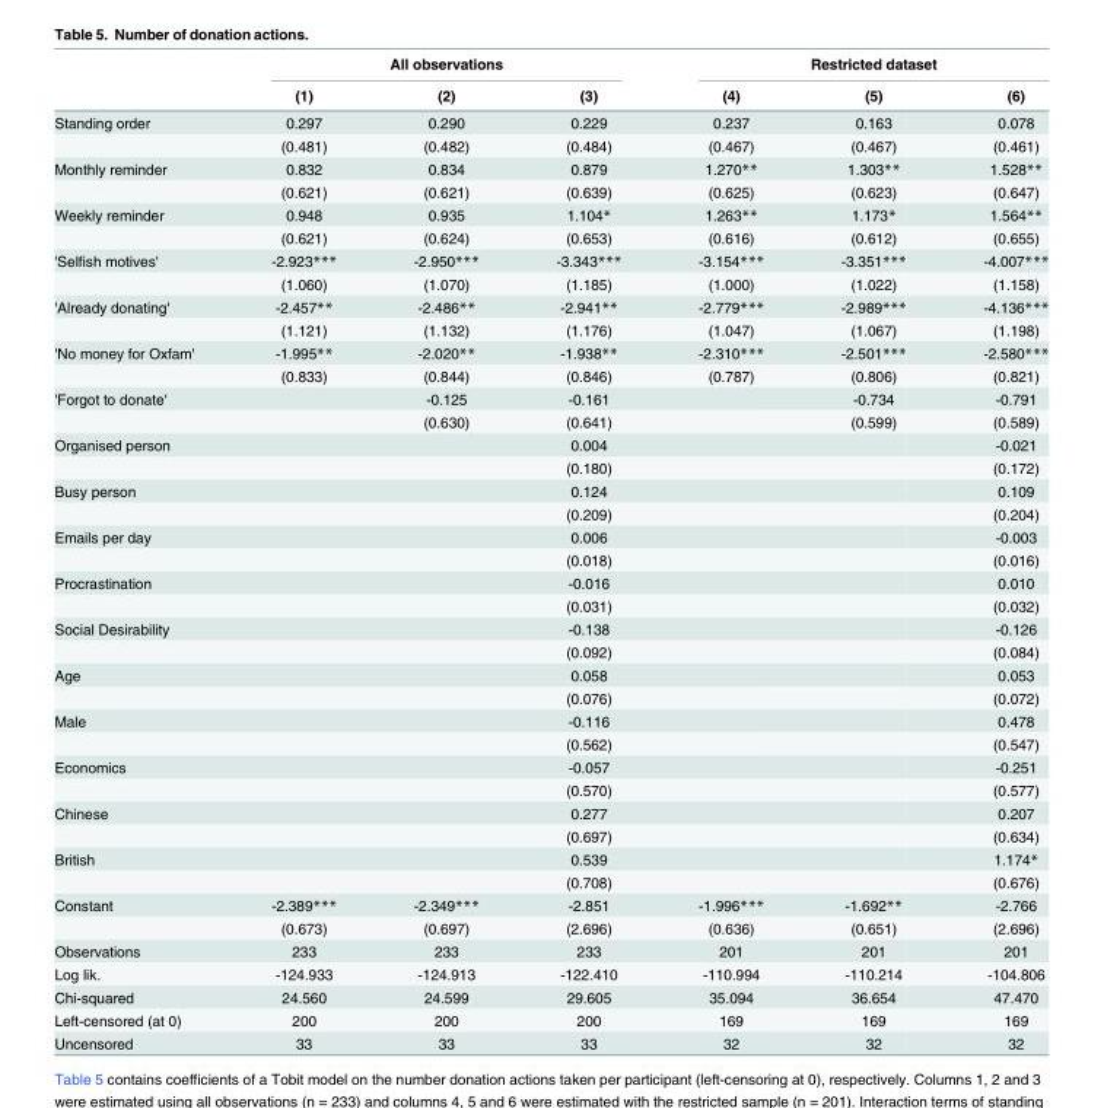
<table><thead><tr><td rowspan="2"></td><td colspan="3">All observations</td><td colspan="3">Restricted dataset</td></tr><tr><td>(1)</td><td>(2)</td><td>(3)</td><td>(4)</td><td>(5)</td><td>(6)</td></tr></thead><tbody><tr><td rowspan="2">Standing order</td><td>0.297</td><td>0.290</td><td>0.229</td><td>0.237</td><td>0.163</td><td>0.078</td></tr><tr><td>(0.481)</td><td>(0.482)</td><td>(0.484)</td><td>(0.467)</td><td>(0.467)</td><td>(0.461)</td></tr><tr><td rowspan="2">Monthly reminder</td><td>0.832</td><td>0.834</td><td>0.879</td><td>1.270**</td><td>1.303**</td><td>1.528**</td></tr><tr><td>(0.621)</td><td>(0.621)</td><td>(0.639)</td><td>(0.625)</td><td>(0.623)</td><td>(0.647)</td></tr><tr><td rowspan="2">Weekly reminder</td><td>0.948</td><td>0.935</td><td>1.104*</td><td>1.263**</td><td>1.173*</td><td>1.564**</td></tr><tr><td>(0.621)</td><td>(0.624)</td><td>(0.653)</td><td>(0.616)</td><td>(0.612)</td><td>(0.655)</td></tr><tr><td rowspan="2">&#x27;Selfish motives&#x27;</td><td>-2.923***</td><td>-2.950***</td><td>-3.343***</td><td>-3.154***</td><td>-3.351***</td><td>-4.007***</td></tr><tr><td>(1.060)</td><td>(1.070)</td><td>(1.185)</td><td>(1.000)</td><td>(1.022)</td><td>(1.158)</td></tr><tr><td rowspan="2">&#x27;Already donating&#x27;</td><td>-2.457**</td><td>-2.486**</td><td>-2.941**</td><td>-2.779***</td><td>-2.989***</td><td>-4.136***</td></tr><tr><td>(1.121)</td><td>(1.132)</td><td>(1.176)</td><td>(1.047)</td><td>(1.067)</td><td>(1.198)</td></tr><tr><td rowspan="2">&#x27;No money for Oxfam&#x27;</td><td>-1.995**</td><td>-2.020**</td><td>-1.938**</td><td>-2.310***</td><td>-2.501***</td><td>-2.580***</td></tr><tr><td>(0.833)</td><td>(0.844)</td><td>(0.846)</td><td>(0.787)</td><td>(0.806)</td><td>(0.821)</td></tr><tr><td rowspan="2">&#x27;Forgot to donate&#x27;</td><td></td><td>-0.125</td><td>-0.161</td><td></td><td>-0.734</td><td>-0.791</td></tr><tr><td></td><td>(0.630)</td><td>(0.641)</td><td></td><td>(0.599)</td><td>(0.589)</td></tr><tr><td rowspan="2">Organised person</td><td></td><td></td><td>0.004</td><td></td><td></td><td>-0.021</td></tr><tr><td></td><td></td><td>(0.180)</td><td></td><td></td><td>(0.172)</td></tr><tr><td rowspan="2">Busy person</td><td></td><td></td><td>0.124</td><td></td><td></td><td>0.109</td></tr><tr><td></td><td></td><td>(0.209)</td><td></td><td></td><td>(0.204)</td></tr><tr><td rowspan="2">Emails per day</td><td></td><td></td><td>0.006</td><td></td><td></td><td>-0.003</td></tr><tr><td></td><td></td><td>(0.018)</td><td></td><td></td><td>(0.016)</td></tr><tr><td rowspan="2">Procrastination</td><td></td><td></td><td>-0.016</td><td></td><td></td><td>0.010</td></tr><tr><td></td><td></td><td>(0.031)</td><td></td><td></td><td>(0.032)</td></tr><tr><td rowspan="2">Social Desirability</td><td></td><td></td><td>-0.138</td><td></td><td></td><td>-0.126</td></tr><tr><td></td><td></td><td>(0.092)</td><td></td><td></td><td>(0.084)</td></tr><tr><td rowspan="2">Age</td><td></td><td></td><td>0.058</td><td></td><td></td><td>0.053</td></tr><tr><td></td><td></td><td>(0.076)</td><td></td><td></td><td>(0.072)</td></tr><tr><td rowspan="2">Male</td><td></td><td></td><td>-0.116</td><td></td><td></td><td>0.478</td></tr><tr><td></td><td></td><td>(0.562)</td><td></td><td></td><td>(0.547)</td></tr><tr><td rowspan="2">Economics</td><td></td><td></td><td>-0.057</td><td></td><td></td><td>-0.251</td></tr><tr><td></td><td></td><td>(0.570)</td><td></td><td></td><td>(0.577)</td></tr><tr><td rowspan="2">Chinese</td><td></td><td></td><td>0.277</td><td></td><td></td><td>0.207</td></tr><tr><td></td><td></td><td>(0.697)</td><td></td><td></td><td>(0.634)</td></tr><tr><td rowspan="2">British</td><td></td><td></td><td>0.539</td><td></td><td></td><td>1.174*</td></tr><tr><td></td><td></td><td>(0.708)</td><td></td><td></td><td>(0.676)</td></tr><tr><td rowspan="2">Constant</td><td>-2.389***</td><td>-2.349***</td><td>-2.851</td><td>-1.996***</td><td>-1.692**</td><td>-2.766</td></tr><tr><td>(0.673)</td><td>(0.697)</td><td>(2.696)</td><td>(0.636)</td><td>(0.651)</td><td>(2.696)</td></tr><tr><td>Observations</td><td>233</td><td>233</td><td>233</td><td>201</td><td>201</td><td>201</td></tr><tr><td>Log lik.</td><td>-124.933</td><td>-124.913</td><td>-122.410</td><td>-110.994</td><td>-110.214</td><td>-104.806</td></tr><tr><td>Chi-squared</td><td>24.560</td><td>24.599</td><td>29.605</td><td>35.094</td><td>36.654</td><td>47.470</td></tr><tr><td>Left-censored (at 0)</td><td>200</td><td>200</td><td>200</td><td>169</td><td>169</td><td>169</td></tr><tr><td>Uncensored</td><td>33</td><td>33</td><td>33</td><td>32</td><td>32</td><td>32</td></tr></tbody></table>